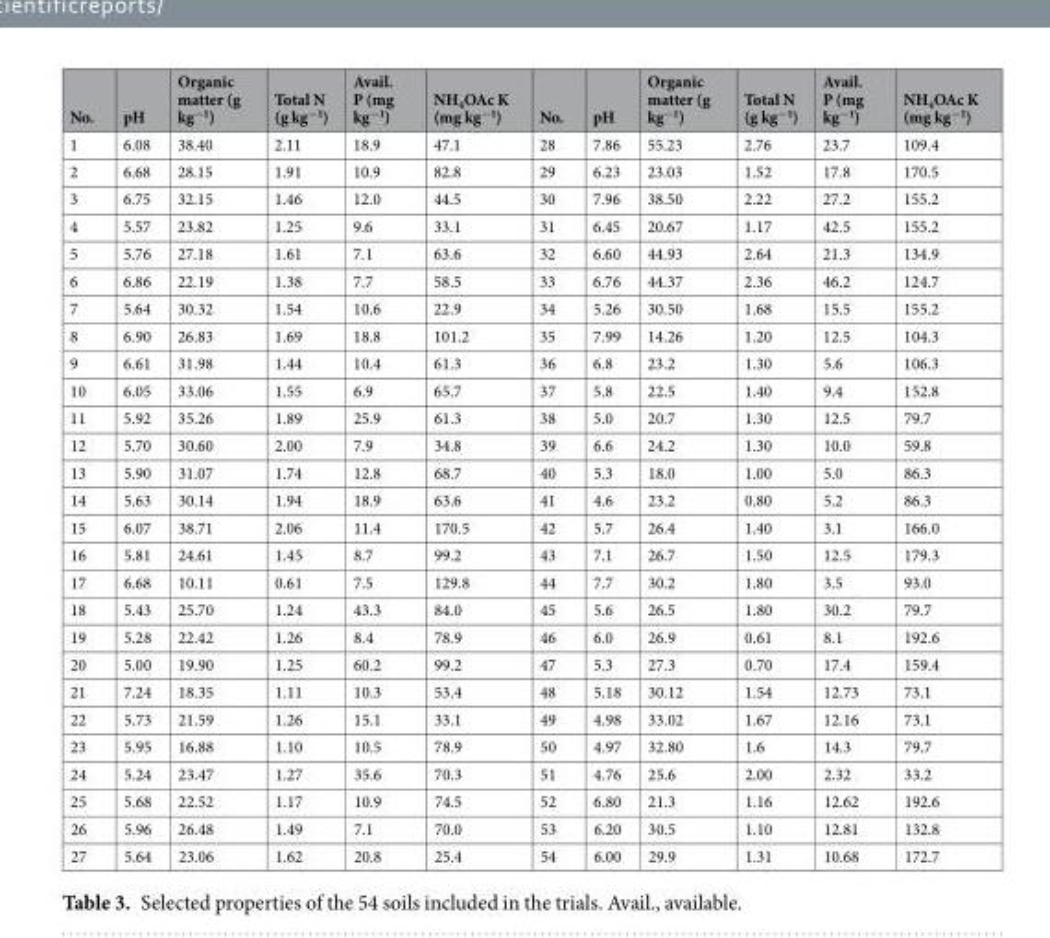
<table><thead><tr><td>No.</td><td>pH</td><td>Organic matter (g kg<sup>−1</sup>)</td><td>Total N (g kg<sup>−1</sup>)</td><td>Avail. P (mg kg<sup>−1</sup>)</td><td>NH<sub>4</sub>OAc K (mg kg<sup>−1</sup>)</td><td>No.</td><td>pH</td><td>Organic matter (g kg<sup>−1</sup>)</td><td>Total N (g kg<sup>−1</sup>)</td><td>Avail. P (mg kg<sup>−1</sup>)</td><td>NH<sub>4</sub>OAc K (mg kg<sup>−1</sup>)</td></tr></thead><tbody><tr><td>1</td><td>6.08</td><td>38.40</td><td>2.11</td><td>18.9</td><td>47.1</td><td>28</td><td>7.86</td><td>55.23</td><td>2.76</td><td>23.7</td><td>109.4</td></tr><tr><td>2</td><td>6.68</td><td>28.15</td><td>1.91</td><td>10.9</td><td>82.8</td><td>29</td><td>6.23</td><td>23.03</td><td>1.52</td><td>17.8</td><td>170.5</td></tr><tr><td>3</td><td>6.75</td><td>32.15</td><td>1.46</td><td>12.0</td><td>44.5</td><td>30</td><td>7.96</td><td>38.50</td><td>2.22</td><td>27.2</td><td>155.2</td></tr><tr><td>4</td><td>5.57</td><td>23.82</td><td>1.25</td><td>9.6</td><td>33.1</td><td>31</td><td>6.45</td><td>20.67</td><td>1.17</td><td>42.5</td><td>155.2</td></tr><tr><td>5</td><td>5.76</td><td>27.18</td><td>1.61</td><td>7.1</td><td>63.6</td><td>32</td><td>6.60</td><td>44.93</td><td>2.64</td><td>21.3</td><td>134.9</td></tr><tr><td>6</td><td>6.86</td><td>22.19</td><td>1.38</td><td>7.7</td><td>58.5</td><td>33</td><td>6.76</td><td>44.37</td><td>2.36</td><td>46.2</td><td>124.7</td></tr><tr><td>7</td><td>5.64</td><td>30.32</td><td>1.54</td><td>10.6</td><td>22.9</td><td>34</td><td>5.26</td><td>30.50</td><td>1.68</td><td>15.5</td><td>155.2</td></tr><tr><td>8</td><td>6.90</td><td>26.83</td><td>1.69</td><td>18.8</td><td>101.2</td><td>35</td><td>7.99</td><td>14.26</td><td>1.20</td><td>12.5</td><td>104.3</td></tr><tr><td>9</td><td>6.61</td><td>31.98</td><td>1.44</td><td>10.4</td><td>61.3</td><td>36</td><td>6.8</td><td>23.2</td><td>1.30</td><td>5.6</td><td>106.3</td></tr><tr><td>10</td><td>6.05</td><td>33.06</td><td>1.55</td><td>6.9</td><td>65.7</td><td>37</td><td>5.8</td><td>22.5</td><td>1.40</td><td>9.4</td><td>152.8</td></tr><tr><td>11</td><td>5.92</td><td>35.26</td><td>1.89</td><td>25.9</td><td>61.3</td><td>38</td><td>5.0</td><td>20.7</td><td>1.30</td><td>12.5</td><td>79.7</td></tr><tr><td>12</td><td>5.70</td><td>30.60</td><td>2.00</td><td>7.9</td><td>34.8</td><td>39</td><td>6.6</td><td>24.2</td><td>1.30</td><td>10.0</td><td>59.8</td></tr><tr><td>13</td><td>5.90</td><td>31.07</td><td>1.74</td><td>12.8</td><td>68.7</td><td>40</td><td>5.3</td><td>18.0</td><td>1.00</td><td>5.0</td><td>86.3</td></tr><tr><td>14</td><td>5.63</td><td>30.14</td><td>1.94</td><td>18.9</td><td>63.6</td><td>41</td><td>4.6</td><td>23.2</td><td>0.80</td><td>5.2</td><td>86.3</td></tr><tr><td>15</td><td>6.07</td><td>38.71</td><td>2.06</td><td>11.4</td><td>170.5</td><td>42</td><td>5.7</td><td>26.4</td><td>1.40</td><td>3.1</td><td>166.0</td></tr><tr><td>16</td><td>5.81</td><td>24.61</td><td>1.45</td><td>8.7</td><td>99.2</td><td>43</td><td>7.1</td><td>26.7</td><td>1.50</td><td>12.5</td><td>179.3</td></tr><tr><td>17</td><td>6.68</td><td>10.11</td><td>0.61</td><td>7.5</td><td>129.8</td><td>44</td><td>7.7</td><td>30.2</td><td>1.80</td><td>3.5</td><td>93.0</td></tr><tr><td>18</td><td>5.43</td><td>25.70</td><td>1.24</td><td>43.3</td><td>84.0</td><td>45</td><td>5.6</td><td>26.5</td><td>1.80</td><td>30.2</td><td>79.7</td></tr><tr><td>19</td><td>5.28</td><td>22.42</td><td>1.26</td><td>8.4</td><td>78.9</td><td>46</td><td>6.0</td><td>26.9</td><td>0.61</td><td>8.1</td><td>192.6</td></tr><tr><td>20</td><td>5.00</td><td>19.90</td><td>1.25</td><td>60.2</td><td>99.2</td><td>47</td><td>5.3</td><td>27.3</td><td>0.70</td><td>17.4</td><td>159.4</td></tr><tr><td>21</td><td>7.24</td><td>18.35</td><td>1.11</td><td>10.3</td><td>53.4</td><td>48</td><td>5.18</td><td>30.12</td><td>1.54</td><td>12.73</td><td>73.1</td></tr><tr><td>22</td><td>5.73</td><td>21.59</td><td>1.26</td><td>15.1</td><td>33.1</td><td>49</td><td>4.98</td><td>33.02</td><td>1.67</td><td>12.16</td><td>73.1</td></tr><tr><td>23</td><td>5.95</td><td>16.88</td><td>1.10</td><td>10.5</td><td>78.9</td><td>50</td><td>4.97</td><td>32.80</td><td>1.6</td><td>14.3</td><td>79.7</td></tr><tr><td>24</td><td>5.24</td><td>23.47</td><td>1.27</td><td>35.6</td><td>70.3</td><td>51</td><td>4.76</td><td>25.6</td><td>2.00</td><td>2.32</td><td>33.2</td></tr><tr><td>25</td><td>5.68</td><td>22.52</td><td>1.17</td><td>10.9</td><td>74.5</td><td>52</td><td>6.80</td><td>21.3</td><td>1.16</td><td>12.62</td><td>192.6</td></tr><tr><td>26</td><td>5.96</td><td>26.48</td><td>1.49</td><td>7.1</td><td>70.0</td><td>53</td><td>6.20</td><td>30.5</td><td>1.10</td><td>12.81</td><td>132.8</td></tr><tr><td>27</td><td>5.64</td><td>23.06</td><td>1.62</td><td>20.8</td><td>25.4</td><td>54</td><td>6.00</td><td>29.9</td><td>1.31</td><td>10.68</td><td>172.7</td></tr></tbody></table>